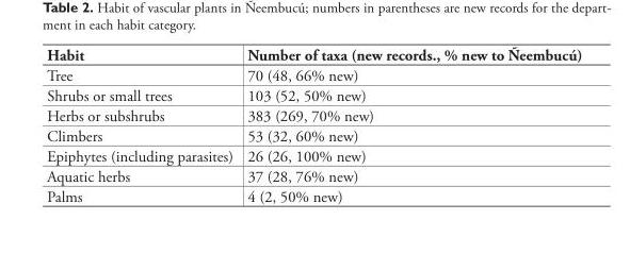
<table><thead><tr><td>Habit</td><td>Number of taxa (new records., % new to Ñeembucú)</td></tr></thead><tbody><tr><td>Tree</td><td>70 (48, 66% new)</td></tr><tr><td>Shrubs or small trees</td><td>103 (52, 50% new)</td></tr><tr><td>Herbs or subshrubs</td><td>383 (269, 70% new)</td></tr><tr><td>Climbers</td><td>53 (32, 60% new)</td></tr><tr><td>Epiphytes (including parasites)</td><td>26 (26, 100% new)</td></tr><tr><td>Aquatic herbs</td><td>37 (28, 76% new)</td></tr><tr><td>Palms</td><td>4 (2, 50% new)</td></tr></tbody></table>